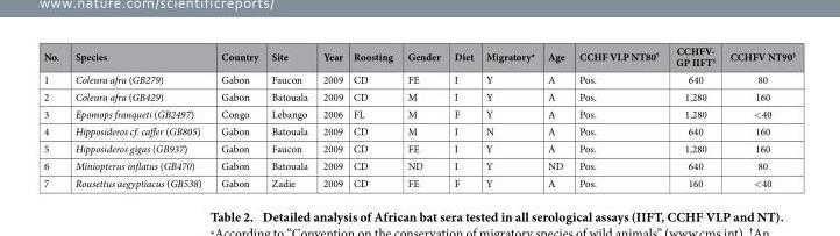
<table><thead><tr><td>No.</td><td>Species</td><td>Country</td><td>Site</td><td>Year</td><td>Roosting</td><td>Gender</td><td>Diet</td><td>Migratory*</td><td>Age</td><td>CCHF VLP NT80†</td><td>CCHFV- GP IIFT‡</td><td>CCHFV NT90§</td></tr></thead><tbody><tr><td>1</td><td>Coleura afra (GB279)</td><td>Gabon</td><td>Faucon</td><td>2009</td><td>CD</td><td>FE</td><td>I</td><td>Y</td><td>A</td><td>Pos.</td><td>640</td><td>80</td></tr><tr><td>2</td><td>Coleura afra (GB429)</td><td>Gabon</td><td>Batouala</td><td>2009</td><td>CD</td><td>M</td><td>I</td><td>Y</td><td>A</td><td>Pos.</td><td>1,280</td><td>160</td></tr><tr><td>3</td><td>Epomops franqueti (GB2497)</td><td>Congo</td><td>Lebango</td><td>2006</td><td>FL</td><td>M</td><td>F</td><td>Y</td><td>A</td><td>Pos.</td><td>1,280</td><td>&lt; 40</td></tr><tr><td>4</td><td>Hipposideros cf. caffer (GB805)</td><td>Gabon</td><td>Batouala</td><td>2009</td><td>CD</td><td>M</td><td>I</td><td>N</td><td>A</td><td>Pos.</td><td>640</td><td>160</td></tr><tr><td>5</td><td>Hipposideros gigas (GB937)</td><td>Gabon</td><td>Faucon</td><td>2009</td><td>CD</td><td>FE</td><td>I</td><td>Y</td><td>A</td><td>Pos.</td><td>1,280</td><td>160</td></tr><tr><td>6</td><td>Miniopterus inflatus (GB470)</td><td>Gabon</td><td>Batouala</td><td>2009</td><td>CD</td><td>ND</td><td>I</td><td>Y</td><td>ND</td><td>Pos.</td><td>640</td><td>80</td></tr><tr><td>7</td><td>Rousettus aegyptiacus (GB538)</td><td>Gabon</td><td>Zadie</td><td>2009</td><td>CD</td><td>FE</td><td>F</td><td>Y</td><td>A</td><td>Pos.</td><td>160</td><td>&lt; 40</td></tr></tbody></table>